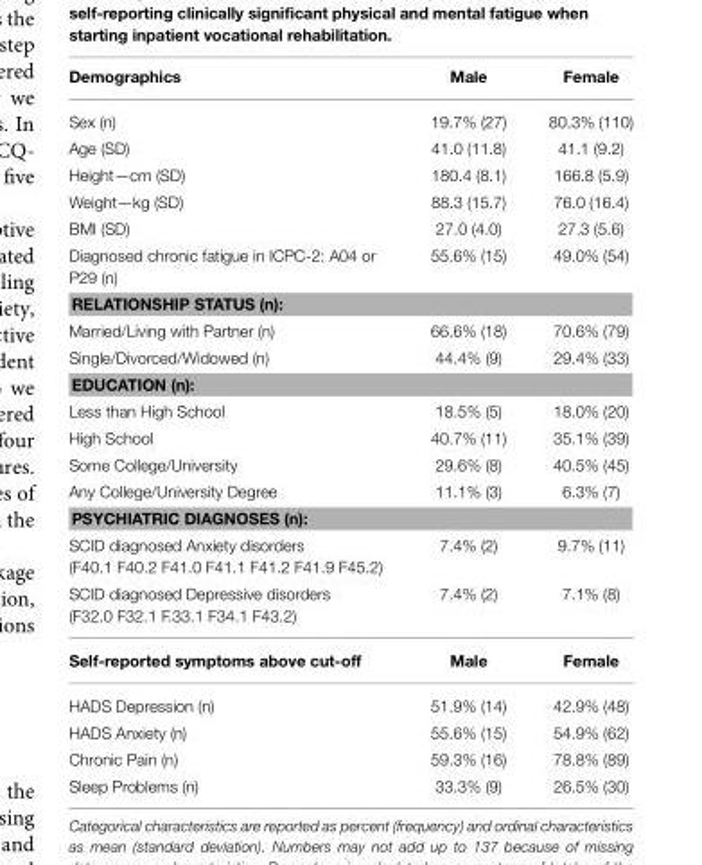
<table><thead><tr><td>Demographics</td><td>Male</td><td>Female</td></tr></thead><tbody><tr><td>Sex (n)</td><td>19.7% (27)</td><td>80.3% (110)</td></tr><tr><td>Age (SD)</td><td>41.0 (11.8)</td><td>41.1 (9.2)</td></tr><tr><td>Height—cm (SD)</td><td>180.4 (8.1)</td><td>166.8 (5.9)</td></tr><tr><td>Weight—kg (SD)</td><td>88.3 (15.7)</td><td>76.0 (16.4)</td></tr><tr><td>BMI (SD)</td><td>27.0 (4.0)</td><td>27.3 (5.6)</td></tr><tr><td>Diagnosed chronic fatigue in ICPC-2: A04 or P29 (n)</td><td>55.6% (15)</td><td>49.0% (54)</td></tr><tr><td colspan="3">RELATIONSHIP STATUS (n):</td></tr><tr><td>Married/Living with Partner (n)</td><td>66.6% (18)</td><td>70.6% (79)</td></tr><tr><td>Single/Divorced/Widowed (n)</td><td>44.4% (9)</td><td>29.4% (33)</td></tr><tr><td colspan="3">EDUCATION (n):</td></tr><tr><td>Less than High School</td><td>18.5% (5)</td><td>18.0% (20)</td></tr><tr><td>High School</td><td>40.7% (11)</td><td>35.1% (39)</td></tr><tr><td>Some College/University</td><td>29.6% (8)</td><td>40.5% (45)</td></tr><tr><td>Any College/University Degree</td><td>11.1% (3)</td><td>6.3% (7)</td></tr><tr><td colspan="3">PSYCHIATRIC DIAGNOSES (n):</td></tr><tr><td>SCID diagnosed Anxiety disorders (F40.1 F40.2 F41.0 F41.1 F41.2 F41.9 F45.2)</td><td>7.4% (2)</td><td>9.7% (11)</td></tr><tr><td>SCID diagnosed Depressive disorders (F32.0 F32.1 F.33.1 F34.1 F43.2)</td><td>7.4% (2)</td><td>7.1% (8)</td></tr><tr><td>Self-reported symptoms above cut-off</td><td>Male</td><td>Female</td></tr><tr><td>HADS Depression (n)</td><td>51.9% (14)</td><td>42.9% (48)</td></tr><tr><td>HADS Anxiety (n)</td><td>55.6% (15)</td><td>54.9% (62)</td></tr><tr><td>Chronic Pain (n)</td><td>59.3% (16)</td><td>78.8% (89)</td></tr><tr><td>Sleep Problems (n)</td><td>33.3% (9)</td><td>26.5% (30)</td></tr></tbody></table>